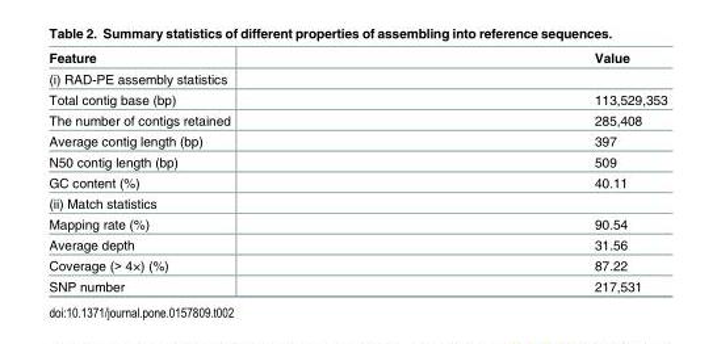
<table><thead><tr><td>Feature</td><td>Value</td></tr></thead><tbody><tr><td colspan="2">(i) RAD-PE assembly statistics</td></tr><tr><td>Total contig base (bp)</td><td>113,529,353</td></tr><tr><td>The number of contigs retained</td><td>285,408</td></tr><tr><td>Average contig length (bp)</td><td>397</td></tr><tr><td>N50 contig length (bp)</td><td>509</td></tr><tr><td>GC content (%)</td><td>40.11</td></tr><tr><td colspan="2">(ii) Match statistics</td></tr><tr><td>Mapping rate (%)</td><td>90.54</td></tr><tr><td>Average depth</td><td>31.56</td></tr><tr><td>Coverage (&gt; 4×) (%)</td><td>87.22</td></tr><tr><td>SNP number</td><td>217,531</td></tr></tbody></table>